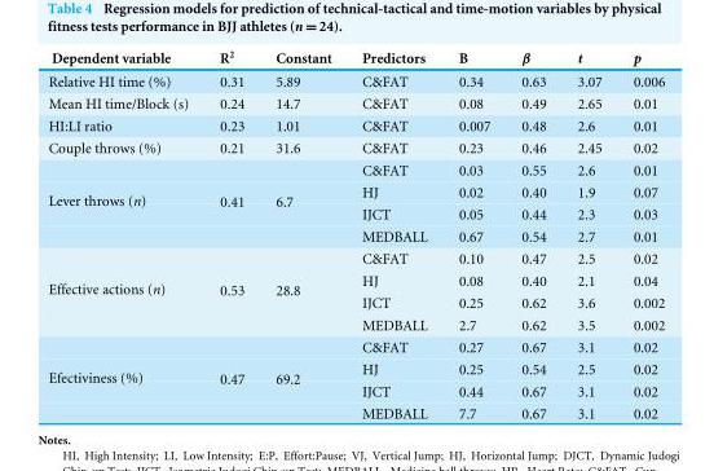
<table><thead><tr><td>Dependent variable</td><td>R<sup>2</sup></td><td>Constant</td><td>Predictors</td><td>B</td><td>β</td><td>t</td><td>p</td></tr></thead><tbody><tr><td>Relative HI time (%)</td><td>0.31</td><td>5.89</td><td>C&amp;FAT</td><td>0.34</td><td>0.63</td><td>3.07</td><td>0.006</td></tr><tr><td>Mean HI time/Block (s)</td><td>0.24</td><td>14.7</td><td>C&amp;FAT</td><td>0.08</td><td>0.49</td><td>2.65</td><td>0.01</td></tr><tr><td>HI:LI ratio</td><td>0.23</td><td>1.01</td><td>C&amp;FAT</td><td>0.007</td><td>0.48</td><td>2.6</td><td>0.01</td></tr><tr><td>Couple throws (%)</td><td>0.21</td><td>31.6</td><td>C&amp;FAT</td><td>0.23</td><td>0.46</td><td>2.45</td><td>0.02</td></tr><tr><td rowspan="4">Lever throws (n)</td><td rowspan="4">0.41</td><td rowspan="4">6.7</td><td>C&amp;FAT</td><td>0.03</td><td>0.55</td><td>2.6</td><td>0.01</td></tr><tr><td>HJ</td><td>0.02</td><td>0.40</td><td>1.9</td><td>0.07</td></tr><tr><td>IJCT</td><td>0.05</td><td>0.44</td><td>2.3</td><td>0.03</td></tr><tr><td>MEDBALL</td><td>0.67</td><td>0.54</td><td>2.7</td><td>0.01</td></tr><tr><td rowspan="4">Effective actions (n)</td><td rowspan="4">0.53</td><td rowspan="4">28.8</td><td>C&amp;FAT</td><td>0.10</td><td>0.47</td><td>2.5</td><td>0.02</td></tr><tr><td>HJ</td><td>0.08</td><td>0.40</td><td>2.1</td><td>0.04</td></tr><tr><td>IJCT</td><td>0.25</td><td>0.62</td><td>3.6</td><td>0.002</td></tr><tr><td>MEDBALL</td><td>2.7</td><td>0.62</td><td>3.5</td><td>0.002</td></tr><tr><td rowspan="4">Efectiviness (%)</td><td rowspan="4">0.47</td><td rowspan="4">69.2</td><td>C&amp;FAT</td><td>0.27</td><td>0.67</td><td>3.1</td><td>0.02</td></tr><tr><td>HJ</td><td>0.25</td><td>0.54</td><td>2.5</td><td>0.02</td></tr><tr><td>IJCT</td><td>0.44</td><td>0.67</td><td>3.1</td><td>0.02</td></tr><tr><td>MEDBALL</td><td>7.7</td><td>0.67</td><td>3.1</td><td>0.02</td></tr></tbody></table>